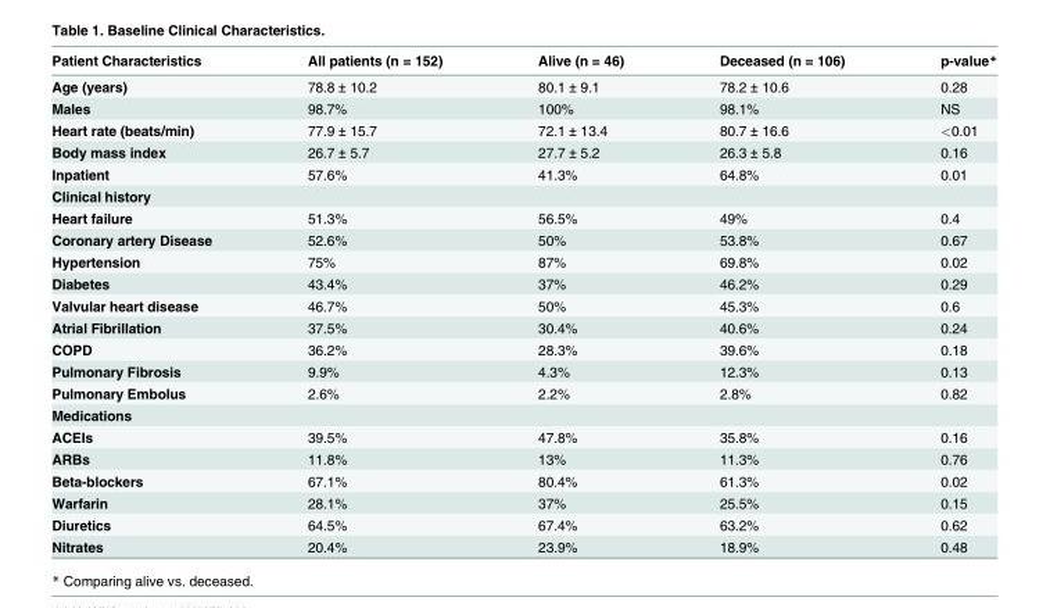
<table><thead><tr><td>Patient Characteristics</td><td>All patients (n = 152)</td><td>Alive (n = 46)</td><td>Deceased (n = 106)</td><td>p-value*</td></tr></thead><tbody><tr><td>Age (years)</td><td>78.8 ± 10.2</td><td>80.1 ± 9.1</td><td>78.2 ± 10.6</td><td>0.28</td></tr><tr><td>Males</td><td>98.7%</td><td>100%</td><td>98.1%</td><td>NS</td></tr><tr><td>Heart rate (beats/min)</td><td>77.9 ± 15.7</td><td>72.1 ± 13.4</td><td>80.7 ± 16.6</td><td>&lt;0.01</td></tr><tr><td>Body mass index</td><td>26.7 ± 5.7</td><td>27.7 ± 5.2</td><td>26.3 ± 5.8</td><td>0.16</td></tr><tr><td>Inpatient</td><td>57.6%</td><td>41.3%</td><td>64.8%</td><td>0.01</td></tr><tr><td colspan="5">Clinical history</td></tr><tr><td>Heart failure</td><td>51.3%</td><td>56.5%</td><td>49%</td><td>0.4</td></tr><tr><td>Coronary artery Disease</td><td>52.6%</td><td>50%</td><td>53.8%</td><td>0.67</td></tr><tr><td>Hypertension</td><td>75%</td><td>87%</td><td>69.8%</td><td>0.02</td></tr><tr><td>Diabetes</td><td>43.4%</td><td>37%</td><td>46.2%</td><td>0.29</td></tr><tr><td>Valvular heart disease</td><td>46.7%</td><td>50%</td><td>45.3%</td><td>0.6</td></tr><tr><td>Atrial Fibrillation</td><td>37.5%</td><td>30.4%</td><td>40.6%</td><td>0.24</td></tr><tr><td>COPD</td><td>36.2%</td><td>28.3%</td><td>39.6%</td><td>0.18</td></tr><tr><td>Pulmonary Fibrosis</td><td>9.9%</td><td>4.3%</td><td>12.3%</td><td>0.13</td></tr><tr><td>Pulmonary Embolus</td><td>2.6%</td><td>2.2%</td><td>2.8%</td><td>0.82</td></tr><tr><td colspan="5">Medications</td></tr><tr><td>ACEIs</td><td>39.5%</td><td>47.8%</td><td>35.8%</td><td>0.16</td></tr><tr><td>ARBs</td><td>11.8%</td><td>13%</td><td>11.3%</td><td>0.76</td></tr><tr><td>Beta-blockers</td><td>67.1%</td><td>80.4%</td><td>61.3%</td><td>0.02</td></tr><tr><td>Warfarin</td><td>28.1%</td><td>37%</td><td>25.5%</td><td>0.15</td></tr><tr><td>Diuretics</td><td>64.5%</td><td>67.4%</td><td>63.2%</td><td>0.62</td></tr><tr><td>Nitrates</td><td>20.4%</td><td>23.9%</td><td>18.9%</td><td>0.48</td></tr></tbody></table>